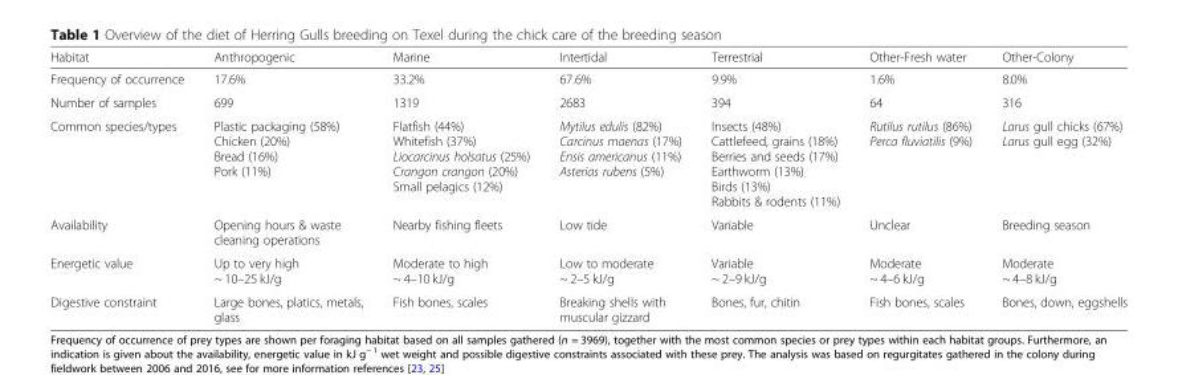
<table><thead><tr><td>Habitat</td><td>Anthropogenic</td><td>Marine</td><td>Intertidal</td><td>Terrestrial</td><td>Other-Fresh water</td><td>Other-Colony</td></tr></thead><tbody><tr><td>Frequency of occurrence</td><td>17.6%</td><td>33.2%</td><td>67.6%</td><td>9.9%</td><td>1.6%</td><td>8.0%</td></tr><tr><td>Number of samples</td><td>699</td><td>1319</td><td>2683</td><td>394</td><td>64</td><td>316</td></tr><tr><td>Common species/types</td><td>Plastic packaging (58%) Chicken (20%) Bread (16%) Pork (11%)</td><td>Flatfish (44%) Whitefish (37%) Liocarcinus holsatus (25%) Crangon crangon (20%) Small pelagics (12%)</td><td>Mytilus edulis (82%) Carcinus maenas (17%) Ensis americanus (11%) Asterias rubens (5%)</td><td>Insects (48%) Cattlefeed, grains (18%) Berries and seeds (17%) Earthworm (13%) Birds (13%) Rabbits &amp; rodents (11%)</td><td>Rutilus rutilus (86%) Perca fluviatilis (9%)</td><td>Larus gull chicks (67%) Larus gull egg (32%)</td></tr><tr><td>Availability</td><td>Opening hours &amp; waste cleaning operations</td><td>Nearby fishing fleets</td><td>Low tide</td><td>Variable</td><td>Unclear</td><td>Breeding season</td></tr><tr><td>Energetic value</td><td>Up to very high ~ 10–25 kJ/g</td><td>Moderate to high ~ 4–10 kJ/g</td><td>Low to moderate ~ 2–5 kJ/g</td><td>Variable ~ 2–9 kJ/g</td><td>Moderate ~ 4–6 kJ/g</td><td>Moderate ~ 4–8 kJ/g</td></tr><tr><td>Digestive constraint</td><td>Large bones, platics, metals, glass</td><td>Fish bones, scales</td><td>Breaking shells with muscular gizzard</td><td>Bones, fur, chitin</td><td>Fish bones, scales</td><td>Bones, down, eggshells</td></tr></tbody></table>